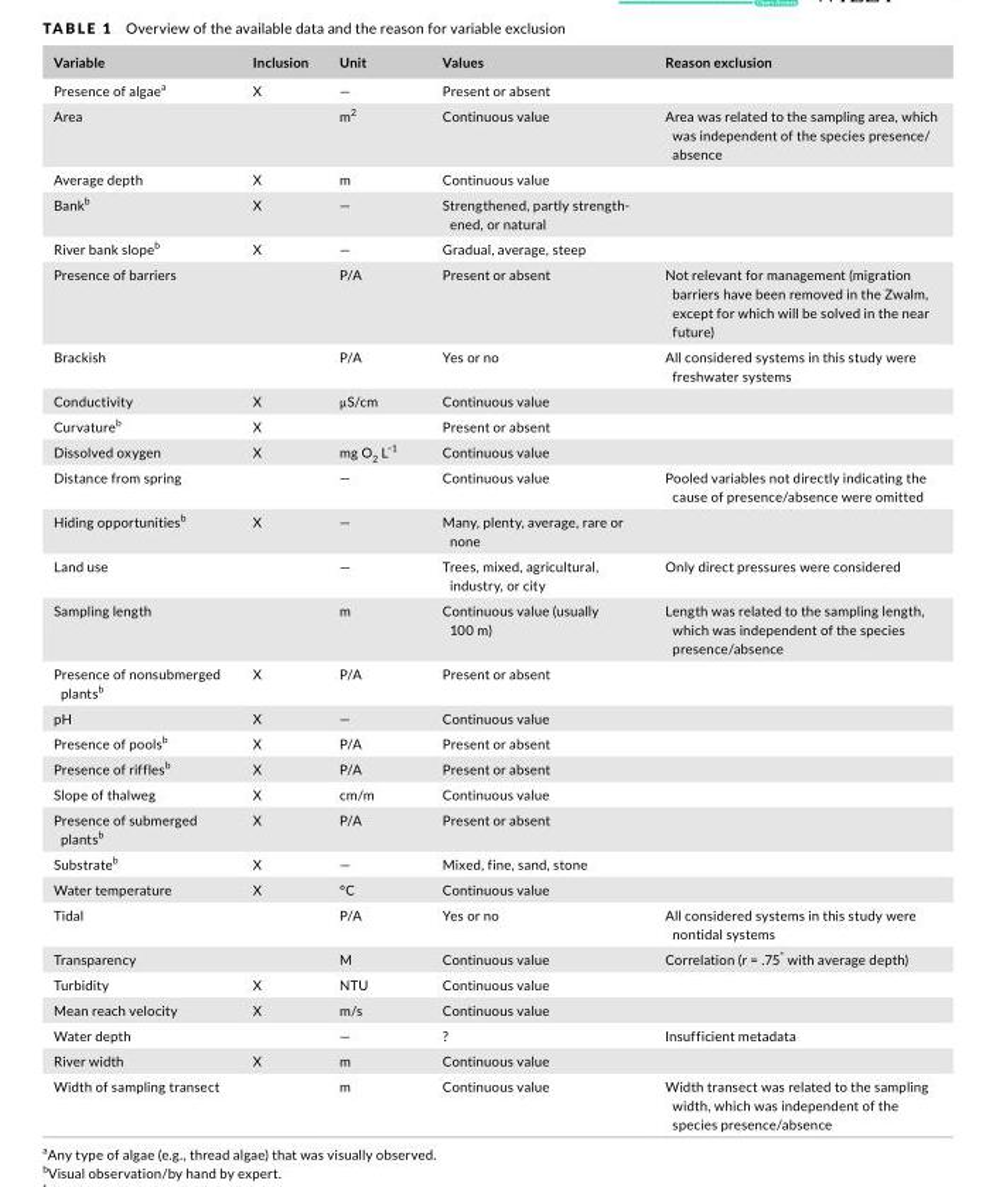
<table><thead><tr><td>Variable</td><td>Inclusion</td><td>Unit</td><td>Values</td><td>Reason exclusion</td></tr></thead><tbody><tr><td>Presence of algae<sup>a</sup></td><td>X</td><td>—</td><td>Present or absent</td><td></td></tr><tr><td>Area</td><td></td><td>m<sup>2</sup></td><td>Continuous value</td><td>Area was related to the sampling area, which was independent of the species presence/ absence</td></tr><tr><td>Average depth</td><td>X</td><td>m</td><td>Continuous value</td><td></td></tr><tr><td>Bank<sup>b</sup></td><td>X</td><td>—</td><td>Strengthened, partly strength- ened, or natural</td><td></td></tr><tr><td>River bank slope<sup>b</sup></td><td>X</td><td>—</td><td>Gradual, average, steep</td><td></td></tr><tr><td>Presence of barriers</td><td></td><td>P/A</td><td>Present or absent</td><td>Not relevant for management (migration barriers have been removed in the Zwalm, except for which will be solved in the near future)</td></tr><tr><td>Brackish</td><td></td><td>P/A</td><td>Yes or no</td><td>All considered systems in this study were freshwater systems</td></tr><tr><td>Conductivity</td><td>X</td><td>μS/cm</td><td>Continuous value</td><td></td></tr><tr><td>Curvature<sup>b</sup></td><td>X</td><td></td><td>Present or absent</td><td></td></tr><tr><td>Dissolved oxygen</td><td>X</td><td>mg O<sub>2</sub> L<sup>−1</sup></td><td>Continuous value</td><td></td></tr><tr><td>Distance from spring</td><td></td><td>—</td><td>Continuous value</td><td>Pooled variables not directly indicating the cause of presence/absence were omitted</td></tr><tr><td>Hiding opportunities<sup>b</sup></td><td>X</td><td>—</td><td>Many, plenty, average, rare or none</td><td></td></tr><tr><td>Land use</td><td></td><td>—</td><td>Trees, mixed, agricultural, industry, or city</td><td>Only direct pressures were considered</td></tr><tr><td>Sampling length</td><td></td><td>m</td><td>Continuous value (usually 100 m)</td><td>Length was related to the sampling length, which was independent of the species presence/absence</td></tr><tr><td>Presence of nonsubmerged plants<sup>b</sup></td><td>X</td><td>P/A</td><td>Present or absent</td><td></td></tr><tr><td>pH</td><td>X</td><td>—</td><td>Continuous value</td><td></td></tr><tr><td>Presence of pools<sup>b</sup></td><td>X</td><td>P/A</td><td>Present or absent</td><td></td></tr><tr><td>Presence of riffles<sup>b</sup></td><td>X</td><td>P/A</td><td>Present or absent</td><td></td></tr><tr><td>Slope of thalweg</td><td>X</td><td>cm/m</td><td>Continuous value</td><td></td></tr><tr><td>Presence of submerged plants<sup>b</sup></td><td>X</td><td>P/A</td><td>Present or absent</td><td></td></tr><tr><td>Substrate<sup>b</sup></td><td>X</td><td>—</td><td>Mixed, fine, sand, stone</td><td></td></tr><tr><td>Water temperature</td><td>X</td><td>°C</td><td>Continuous value</td><td></td></tr><tr><td>Tidal</td><td></td><td>P/A</td><td>Yes or no</td><td>All considered systems in this study were nontidal systems</td></tr><tr><td>Transparency</td><td></td><td>M</td><td>Continuous value</td><td>Correlation (r = .75* with average depth)</td></tr><tr><td>Turbidity</td><td>X</td><td>NTU</td><td>Continuous value</td><td></td></tr><tr><td>Mean reach velocity</td><td>X</td><td>m/s</td><td>Continuous value</td><td></td></tr><tr><td>Water depth</td><td></td><td>—</td><td>?</td><td>Insufficient metadata</td></tr><tr><td>River width</td><td>X</td><td>m</td><td>Continuous value</td><td></td></tr><tr><td>Width of sampling transect</td><td></td><td>m</td><td>Continuous value</td><td>Width transect was related to the sampling width, which was independent of the species presence/absence</td></tr></tbody></table>